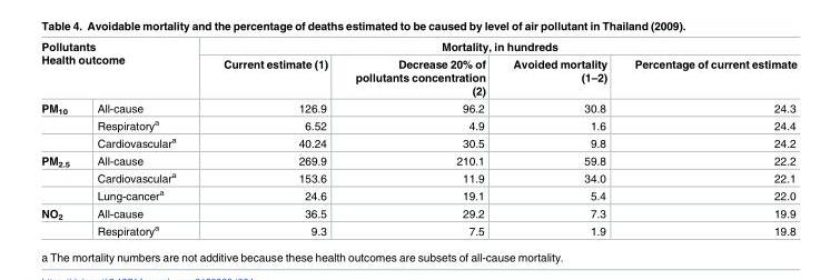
<table><thead><tr><td rowspan="2" colspan="2">Pollutants Health outcome</td><td colspan="4">Mortality, in hundreds</td></tr><tr><td rowspan="2">Current estimate (1) 126.9</td><td rowspan="2">Decrease 20% of pollutants concentration (2) 96.2</td><td rowspan="2">Avoided mortality (1–2) 30.8</td><td rowspan="2">Percentage of current estimate 24.3</td></tr><tr><td>PM<sub>10</sub></td><td>All-cause</td></tr></thead><tbody><tr><td></td><td>Respiratory<sup>a</sup></td><td>6.52</td><td>4.9</td><td>1.6</td><td>24.4</td></tr><tr><td></td><td>Cardiovascular<sup>a</sup></td><td>40.24</td><td>30.5</td><td>9.8</td><td>24.2</td></tr><tr><td rowspan="3">PM<sub>2.5</sub></td><td>All-cause</td><td>269.9</td><td>210.1</td><td>59.8</td><td>22.2</td></tr><tr><td>Cardiovascular<sup>a</sup></td><td>153.6</td><td>11.9</td><td>34.0</td><td>22.1</td></tr><tr><td>Lung-cancer<sup>a</sup></td><td>24.6</td><td>19.1</td><td>5.4</td><td>22.0</td></tr><tr><td rowspan="2">NO<sub>2</sub></td><td>All-cause</td><td>36.5</td><td>29.2</td><td>7.3</td><td>19.9</td></tr><tr><td>Respiratory<sup>a</sup></td><td>9.3</td><td>7.5</td><td>1.9</td><td>19.8</td></tr></tbody></table>